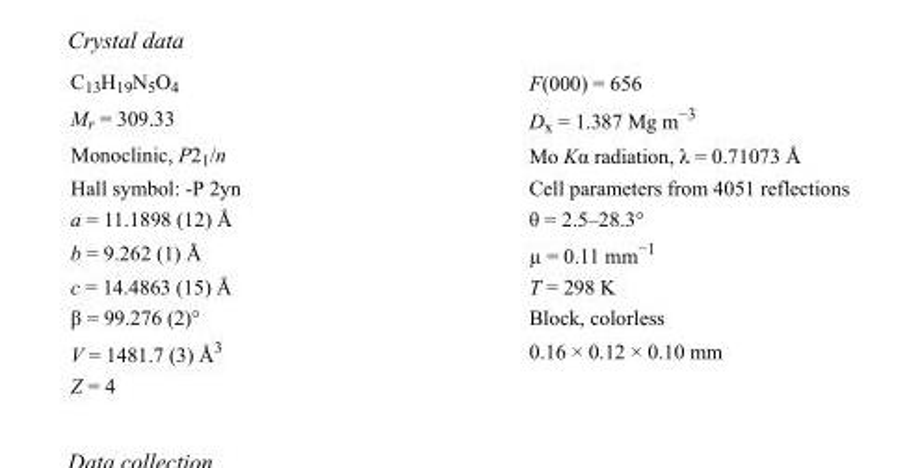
<table><tbody><tr><td>C<sub>13</sub>H<sub>19</sub>N<sub>5</sub>O<sub>4</sub></td><td>F(000) = 656</td></tr><tr><td>M<sub>r</sub> = 309.33</td><td>D<sub>x</sub> = 1.387 Mg m<sup>−3</sup></td></tr><tr><td>Monoclinic, P2<sub>1</sub>/n</td><td>Mo Kα radiation, λ = 0.71073 Å</td></tr><tr><td>Hall symbol: -P 2yn</td><td>Cell parameters from 4051 reflections</td></tr><tr><td>a = 11.1898 (12) Å</td><td>θ = 2.5–28.3°</td></tr><tr><td>b = 9.262 (1) Å</td><td>µ = 0.11 mm<sup>−1</sup></td></tr><tr><td>c = 14.4863 (15) Å</td><td>T = 298 K</td></tr><tr><td>β = 99.276 (2)°</td><td>Block, colorless</td></tr><tr><td>V = 1481.7 (3) Å<sup>3</sup></td><td>0.16 × 0.12 × 0.10 mm</td></tr><tr><td>Z = 4</td><td></td></tr></tbody></table>